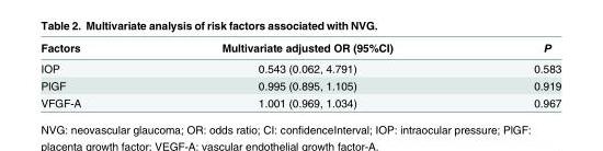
<table><thead><tr><td>Factors</td><td>Multivariate adjusted OR (95%CI)</td><td>P</td></tr></thead><tbody><tr><td>IOP</td><td>0.543 (0.062, 4.791)</td><td>0.583</td></tr><tr><td>PlGF</td><td>0.995 (0.895, 1.105)</td><td>0.919</td></tr><tr><td>VFGF-A</td><td>1.001 (0.969, 1.034)</td><td>0.967</td></tr></tbody></table>